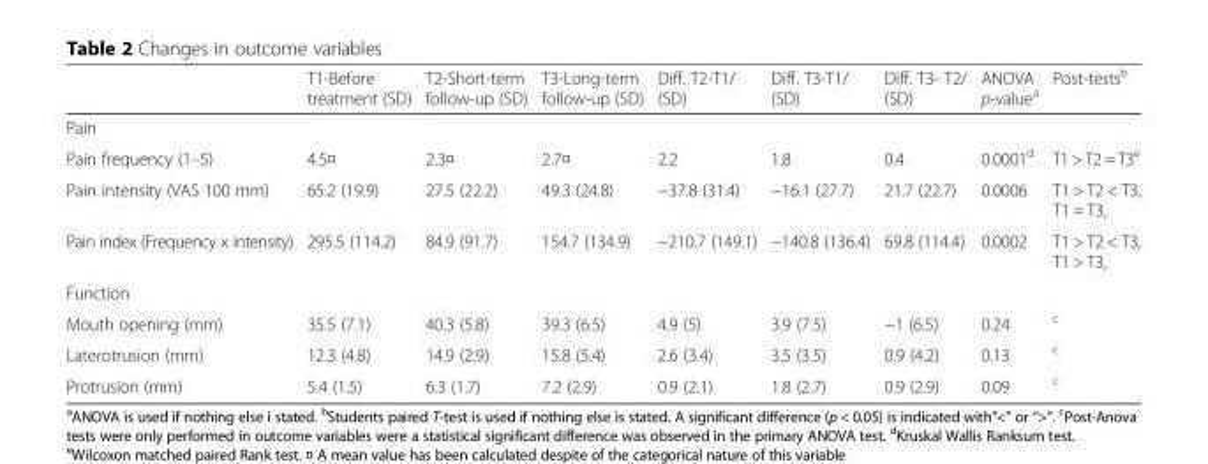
<table><thead><tr><td></td><td>T1-Before treatment (SD)</td><td>T2-Short-term follow-up (SD)</td><td>T3-Long-term follow-up (SD)</td><td>Diff. T2-T1/ (SD)</td><td>Diff. T3-T1/ (SD)</td><td>Diff. T3- T2/ (SD)</td><td>ANOVA p-value<sup>a</sup></td><td>Post-tests<sup>b</sup></td></tr></thead><tbody><tr><td colspan="9">Pain</td></tr><tr><td>Pain frequency (1–5)</td><td>4.5¤</td><td>2.3¤</td><td>2.7¤</td><td>2.2</td><td>1.8</td><td>0.4</td><td>0.0001<sup>d</sup></td><td>T1 &gt; T2 = T3<sup>e</sup></td></tr><tr><td>Pain intensity (VAS 100 mm)</td><td>65.2 (19.9)</td><td>27.5 (22.2)</td><td>49.3 (24.8)</td><td>−37.8 (31.4)</td><td>−16.1 (27.7)</td><td>21.7 (22.7)</td><td>0.0006</td><td>T1 &gt; T2 &lt; T3, T1 = T3,</td></tr><tr><td>Pain index (Frequency x intensity)</td><td>295.5 (114.2)</td><td>84.9 (91.7)</td><td>154.7 (134.9)</td><td>−210.7 (149.1)</td><td>−140.8 (136.4)</td><td>69.8 (114.4)</td><td>0.0002</td><td>T1 &gt; T2 &lt; T3, T1 &gt; T3,</td></tr><tr><td colspan="9">Function</td></tr><tr><td>Mouth opening (mm)</td><td>35.5 (7.1)</td><td>40.3 (5.8)</td><td>39.3 (6.5)</td><td>4.9 (5)</td><td>3.9 (7.5)</td><td>−1 (6.5)</td><td>0.24</td><td><sup>c</sup></td></tr><tr><td>Laterotrusion (mm)</td><td>12.3 (4.8)</td><td>14.9 (2.9)</td><td>15.8 (5.4)</td><td>2.6 (3.4)</td><td>3.5 (3.5)</td><td>0.9 (4.2)</td><td>0.13</td><td><sup>c</sup></td></tr><tr><td>Protrusion (mm)</td><td>5.4 (1.5)</td><td>6.3 (1.7)</td><td>7.2 (2.9)</td><td>0.9 (2.1)</td><td>1.8 (2.7)</td><td>0.9 (2.9)</td><td>0.09</td><td><sup>c</sup></td></tr></tbody></table>